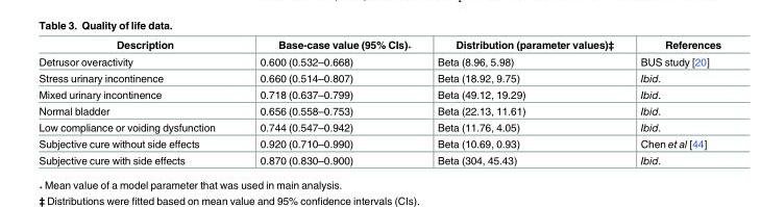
<table><thead><tr><td>Description</td><td>Base-case value (95% CIs)₊</td><td>Distribution (parameter values)‡</td><td>References</td></tr></thead><tbody><tr><td>Detrusor overactivity</td><td>0.600 (0.532–0.668)</td><td>Beta (8.96, 5.98)</td><td>BUS study [20]</td></tr><tr><td>Stress urinary incontinence</td><td>0.660 (0.514–0.807)</td><td>Beta (18.92, 9.75)</td><td>Ibid.</td></tr><tr><td>Mixed urinary incontinence</td><td>0.718 (0.637–0.799)</td><td>Beta (49.12, 19.29)</td><td>Ibid.</td></tr><tr><td>Normal bladder</td><td>0.656 (0.558–0.753)</td><td>Beta (22.13, 11.61)</td><td>Ibid.</td></tr><tr><td>Low compliance or voiding dysfunction</td><td>0.744 (0.547–0.942)</td><td>Beta (11.76, 4.05)</td><td>Ibid.</td></tr><tr><td>Subjective cure without side effects</td><td>0.920 (0.710–0.990)</td><td>Beta (10.69, 0.93)</td><td>Chen et al [44]</td></tr><tr><td>Subjective cure with side effects</td><td>0.870 (0.830–0.900)</td><td>Beta (304, 45.43)</td><td>Ibid.</td></tr></tbody></table>